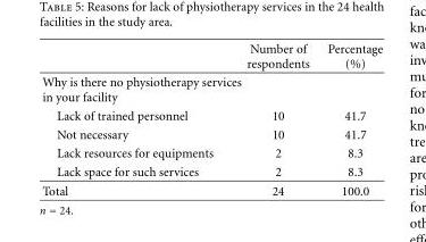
<table><thead><tr><td></td><td>Number of respondents</td><td>Percentage (%)</td></tr></thead><tbody><tr><td colspan="3">Why is there no physiotherapy services in your facility</td></tr><tr><td>Lack of trained personnel</td><td>10</td><td>41.7</td></tr><tr><td>Not necessary</td><td>10</td><td>41.7</td></tr><tr><td>Lack resources for equipments</td><td>2</td><td>8.3</td></tr><tr><td>Lack space for such services</td><td>2</td><td>8.3</td></tr><tr><td>Total</td><td>24</td><td>100.0</td></tr></tbody></table>